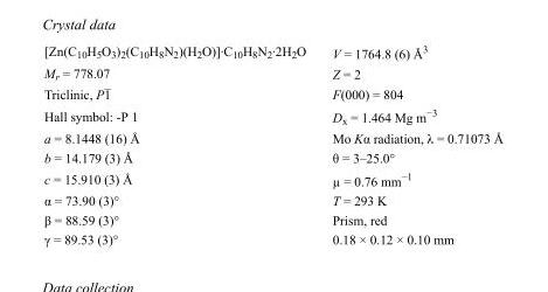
<table><tbody><tr><td>[Zn(C<sub>10</sub>H<sub>5</sub>O<sub>3</sub>)<sub>2</sub>(C<sub>10</sub>H<sub>8</sub>N<sub>2</sub>)(H<sub>2</sub>O)]·C<sub>10</sub>H<sub>8</sub>N<sub>2</sub>·2H<sub>2</sub>O</td><td>V = 1764.8 (6) Å<sup>3</sup></td></tr><tr><td>M<sub>r</sub> = 778.07</td><td>Z = 2</td></tr><tr><td>Triclinic, P1</td><td>F(000) = 804</td></tr><tr><td>Hall symbol: -P 1</td><td>D<sub>x</sub> = 1.464 Mg m<sup>−3</sup></td></tr><tr><td>a = 8.1448 (16) Å</td><td>Mo Kα radiation, λ = 0.71073 Å</td></tr><tr><td>b = 14.179 (3) Å</td><td>θ = 3–25.0°</td></tr><tr><td>c = 15.910 (3) Å</td><td>µ = 0.76 mm<sup>−1</sup></td></tr><tr><td>α = 73.90 (3)°</td><td>T = 293 K</td></tr><tr><td>β = 88.59 (3)°</td><td>Prism, red</td></tr><tr><td>γ = 89.53 (3)°</td><td>0.18 × 0.12 × 0.10 mm</td></tr></tbody></table>